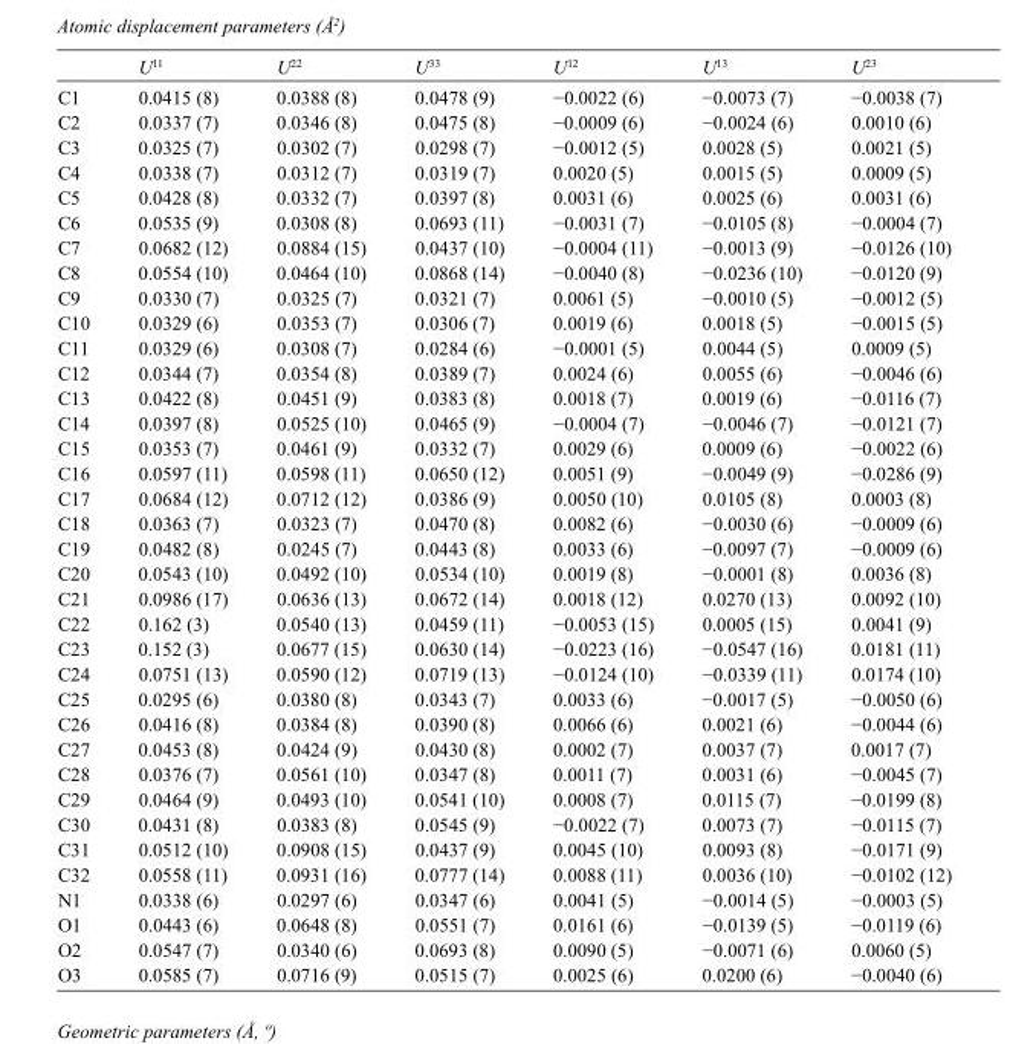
<table><thead><tr><td></td><td>U<sup>11</sup></td><td>U<sup>22</sup></td><td>U<sup>33</sup></td><td>U<sup>12</sup></td><td>U<sup>13</sup></td><td>U<sup>23</sup></td></tr></thead><tbody><tr><td>C1</td><td>0.0415 (8)</td><td>0.0388 (8)</td><td>0.0478 (9)</td><td>−0.0022 (6)</td><td>−0.0073 (7)</td><td>−0.0038 (7)</td></tr><tr><td>C2</td><td>0.0337 (7)</td><td>0.0346 (8)</td><td>0.0475 (8)</td><td>−0.0009 (6)</td><td>−0.0024 (6)</td><td>0.0010 (6)</td></tr><tr><td>C3</td><td>0.0325 (7)</td><td>0.0302 (7)</td><td>0.0298 (7)</td><td>−0.0012 (5)</td><td>0.0028 (5)</td><td>0.0021 (5)</td></tr><tr><td>C4</td><td>0.0338 (7)</td><td>0.0312 (7)</td><td>0.0319 (7)</td><td>0.0020 (5)</td><td>0.0015 (5)</td><td>0.0009 (5)</td></tr><tr><td>C5</td><td>0.0428 (8)</td><td>0.0332 (7)</td><td>0.0397 (8)</td><td>0.0031 (6)</td><td>0.0025 (6)</td><td>0.0031 (6)</td></tr><tr><td>C6</td><td>0.0535 (9)</td><td>0.0308 (8)</td><td>0.0693 (11)</td><td>−0.0031 (7)</td><td>−0.0105 (8)</td><td>−0.0004 (7)</td></tr><tr><td>C7</td><td>0.0682 (12)</td><td>0.0884 (15)</td><td>0.0437 (10)</td><td>−0.0004 (11)</td><td>−0.0013 (9)</td><td>−0.0126 (10)</td></tr><tr><td>C8</td><td>0.0554 (10)</td><td>0.0464 (10)</td><td>0.0868 (14)</td><td>−0.0040 (8)</td><td>−0.0236 (10)</td><td>−0.0120 (9)</td></tr><tr><td>C9</td><td>0.0330 (7)</td><td>0.0325 (7)</td><td>0.0321 (7)</td><td>0.0061 (5)</td><td>−0.0010 (5)</td><td>−0.0012 (5)</td></tr><tr><td>C10</td><td>0.0329 (6)</td><td>0.0353 (7)</td><td>0.0306 (7)</td><td>0.0019 (6)</td><td>0.0018 (5)</td><td>−0.0015 (5)</td></tr><tr><td>C11</td><td>0.0329 (6)</td><td>0.0308 (7)</td><td>0.0284 (6)</td><td>−0.0001 (5)</td><td>0.0044 (5)</td><td>0.0009 (5)</td></tr><tr><td>C12</td><td>0.0344 (7)</td><td>0.0354 (8)</td><td>0.0389 (7)</td><td>0.0024 (6)</td><td>0.0055 (6)</td><td>−0.0046 (6)</td></tr><tr><td>C13</td><td>0.0422 (8)</td><td>0.0451 (9)</td><td>0.0383 (8)</td><td>0.0018 (7)</td><td>0.0019 (6)</td><td>−0.0116 (7)</td></tr><tr><td>C14</td><td>0.0397 (8)</td><td>0.0525 (10)</td><td>0.0465 (9)</td><td>−0.0004 (7)</td><td>−0.0046 (7)</td><td>−0.0121 (7)</td></tr><tr><td>C15</td><td>0.0353 (7)</td><td>0.0461 (9)</td><td>0.0332 (7)</td><td>0.0029 (6)</td><td>0.0009 (6)</td><td>−0.0022 (6)</td></tr><tr><td>C16</td><td>0.0597 (11)</td><td>0.0598 (11)</td><td>0.0650 (12)</td><td>0.0051 (9)</td><td>−0.0049 (9)</td><td>−0.0286 (9)</td></tr><tr><td>C17</td><td>0.0684 (12)</td><td>0.0712 (12)</td><td>0.0386 (9)</td><td>0.0050 (10)</td><td>0.0105 (8)</td><td>0.0003 (8)</td></tr><tr><td>C18</td><td>0.0363 (7)</td><td>0.0323 (7)</td><td>0.0470 (8)</td><td>0.0082 (6)</td><td>−0.0030 (6)</td><td>−0.0009 (6)</td></tr><tr><td>C19</td><td>0.0482 (8)</td><td>0.0245 (7)</td><td>0.0443 (8)</td><td>0.0033 (6)</td><td>−0.0097 (7)</td><td>−0.0009 (6)</td></tr><tr><td>C20</td><td>0.0543 (10)</td><td>0.0492 (10)</td><td>0.0534 (10)</td><td>0.0019 (8)</td><td>−0.0001 (8)</td><td>0.0036 (8)</td></tr><tr><td>C21</td><td>0.0986 (17)</td><td>0.0636 (13)</td><td>0.0672 (14)</td><td>0.0018 (12)</td><td>0.0270 (13)</td><td>0.0092 (10)</td></tr><tr><td>C22</td><td>0.162 (3)</td><td>0.0540 (13)</td><td>0.0459 (11)</td><td>−0.0053 (15)</td><td>0.0005 (15)</td><td>0.0041 (9)</td></tr><tr><td>C23</td><td>0.152 (3)</td><td>0.0677 (15)</td><td>0.0630 (14)</td><td>−0.0223 (16)</td><td>−0.0547 (16)</td><td>0.0181 (11)</td></tr><tr><td>C24</td><td>0.0751 (13)</td><td>0.0590 (12)</td><td>0.0719 (13)</td><td>−0.0124 (10)</td><td>−0.0339 (11)</td><td>0.0174 (10)</td></tr><tr><td>C25</td><td>0.0295 (6)</td><td>0.0380 (8)</td><td>0.0343 (7)</td><td>0.0033 (6)</td><td>−0.0017 (5)</td><td>−0.0050 (6)</td></tr><tr><td>C26</td><td>0.0416 (8)</td><td>0.0384 (8)</td><td>0.0390 (8)</td><td>0.0066 (6)</td><td>0.0021 (6)</td><td>−0.0044 (6)</td></tr><tr><td>C27</td><td>0.0453 (8)</td><td>0.0424 (9)</td><td>0.0430 (8)</td><td>0.0002 (7)</td><td>0.0037 (7)</td><td>0.0017 (7)</td></tr><tr><td>C28</td><td>0.0376 (7)</td><td>0.0561 (10)</td><td>0.0347 (8)</td><td>0.0011 (7)</td><td>0.0031 (6)</td><td>−0.0045 (7)</td></tr><tr><td>C29</td><td>0.0464 (9)</td><td>0.0493 (10)</td><td>0.0541 (10)</td><td>0.0008 (7)</td><td>0.0115 (7)</td><td>−0.0199 (8)</td></tr><tr><td>C30</td><td>0.0431 (8)</td><td>0.0383 (8)</td><td>0.0545 (9)</td><td>−0.0022 (7)</td><td>0.0073 (7)</td><td>−0.0115 (7)</td></tr><tr><td>C31</td><td>0.0512 (10)</td><td>0.0908 (15)</td><td>0.0437 (9)</td><td>0.0045 (10)</td><td>0.0093 (8)</td><td>−0.0171 (9)</td></tr><tr><td>C32</td><td>0.0558 (11)</td><td>0.0931 (16)</td><td>0.0777 (14)</td><td>0.0088 (11)</td><td>0.0036 (10)</td><td>−0.0102 (12)</td></tr><tr><td>N1</td><td>0.0338 (6)</td><td>0.0297 (6)</td><td>0.0347 (6)</td><td>0.0041 (5)</td><td>−0.0014 (5)</td><td>−0.0003 (5)</td></tr><tr><td>O1</td><td>0.0443 (6)</td><td>0.0648 (8)</td><td>0.0551 (7)</td><td>0.0161 (6)</td><td>−0.0139 (5)</td><td>−0.0119 (6)</td></tr><tr><td>O2</td><td>0.0547 (7)</td><td>0.0340 (6)</td><td>0.0693 (8)</td><td>0.0090 (5)</td><td>−0.0071 (6)</td><td>0.0060 (5)</td></tr><tr><td>O3</td><td>0.0585 (7)</td><td>0.0716 (9)</td><td>0.0515 (7)</td><td>0.0025 (6)</td><td>0.0200 (6)</td><td>−0.0040 (6)</td></tr></tbody></table>